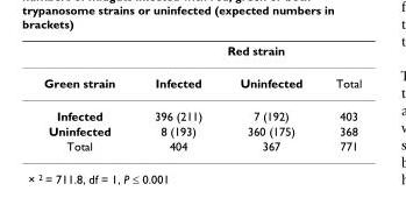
<table><thead><tr><td rowspan="2">Green strain</td><td colspan="3">Red strain</td></tr><tr><td>Infected</td><td>Uninfected</td><td>Total</td></tr></thead><tbody><tr><td>Infected</td><td>396 (211)</td><td>7 (192)</td><td>403</td></tr><tr><td>Uninfected</td><td>8 (193)</td><td>360 (175)</td><td>368</td></tr><tr><td>Total</td><td>404</td><td>367</td><td>771</td></tr></tbody></table>